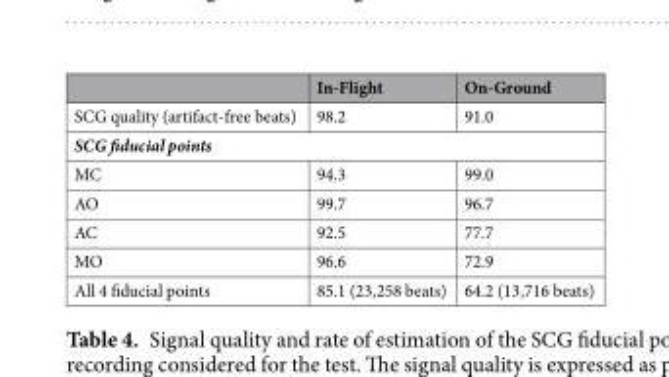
<table><thead><tr><td></td><td>In-Flight</td><td>On-Ground</td></tr></thead><tbody><tr><td>SCG quality (artifact-free beats)</td><td>98.2</td><td>91.0</td></tr><tr><td colspan="3">SCG fiducial points</td></tr><tr><td>MC</td><td>94.3</td><td>99.0</td></tr><tr><td>AO</td><td>99.7</td><td>96.7</td></tr><tr><td>AC</td><td>92.5</td><td>77.7</td></tr><tr><td>MO</td><td>96.6</td><td>72.9</td></tr><tr><td>All 4 fiducial points</td><td>85.1 (23,258 beats)</td><td>64.2 (13,716 beats)</td></tr></tbody></table>